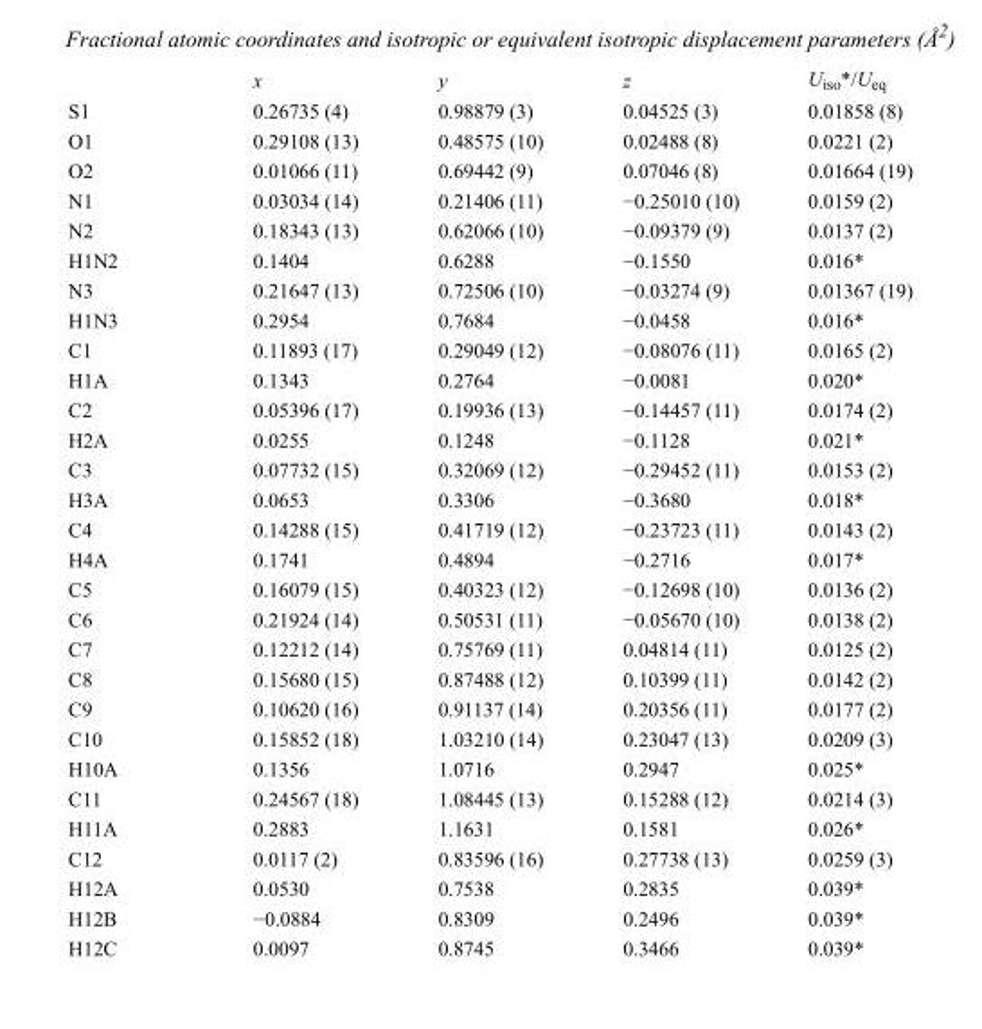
<table><thead><tr><td></td><td>x</td><td>y</td><td>z</td><td>U<sub>iso</sub>*/U<sub>eq</sub></td></tr></thead><tbody><tr><td>S1</td><td>0.26735 (4)</td><td>0.98879 (3)</td><td>0.04525 (3)</td><td>0.01858 (8)</td></tr><tr><td>O1</td><td>0.29108 (13)</td><td>0.48575 (10)</td><td>0.02488 (8)</td><td>0.0221 (2)</td></tr><tr><td>O2</td><td>0.01066 (11)</td><td>0.69442 (9)</td><td>0.07046 (8)</td><td>0.01664 (19)</td></tr><tr><td>N1</td><td>0.03034 (14)</td><td>0.21406 (11)</td><td>−0.25010 (10)</td><td>0.0159 (2)</td></tr><tr><td>N2</td><td>0.18343 (13)</td><td>0.62066 (10)</td><td>−0.09379 (9)</td><td>0.0137 (2)</td></tr><tr><td>H1N2</td><td>0.1404</td><td>0.6288</td><td>−0.1550</td><td>0.016*</td></tr><tr><td>N3</td><td>0.21647 (13)</td><td>0.72506 (10)</td><td>−0.03274 (9)</td><td>0.01367 (19)</td></tr><tr><td>H1N3</td><td>0.2954</td><td>0.7684</td><td>−0.0458</td><td>0.016*</td></tr><tr><td>C1</td><td>0.11893 (17)</td><td>0.29049 (12)</td><td>−0.08076 (11)</td><td>0.0165 (2)</td></tr><tr><td>H1A</td><td>0.1343</td><td>0.2764</td><td>−0.0081</td><td>0.020*</td></tr><tr><td>C2</td><td>0.05396 (17)</td><td>0.19936 (13)</td><td>−0.14457 (11)</td><td>0.0174 (2)</td></tr><tr><td>H2A</td><td>0.0255</td><td>0.1248</td><td>−0.1128</td><td>0.021*</td></tr><tr><td>C3</td><td>0.07732 (15)</td><td>0.32069 (12)</td><td>−0.29452 (11)</td><td>0.0153 (2)</td></tr><tr><td>H3A</td><td>0.0653</td><td>0.3306</td><td>−0.3680</td><td>0.018*</td></tr><tr><td>C4</td><td>0.14288 (15)</td><td>0.41719 (12)</td><td>−0.23723 (11)</td><td>0.0143 (2)</td></tr><tr><td>H4A</td><td>0.1741</td><td>0.4894</td><td>−0.2716</td><td>0.017*</td></tr><tr><td>C5</td><td>0.16079 (15)</td><td>0.40323 (12)</td><td>−0.12698 (10)</td><td>0.0136 (2)</td></tr><tr><td>C6</td><td>0.21924 (14)</td><td>0.50531 (11)</td><td>−0.05670 (10)</td><td>0.0138 (2)</td></tr><tr><td>C7</td><td>0.12212 (14)</td><td>0.75769 (11)</td><td>0.04814 (11)</td><td>0.0125 (2)</td></tr><tr><td>C8</td><td>0.15680 (15)</td><td>0.87488 (12)</td><td>0.10399 (11)</td><td>0.0142 (2)</td></tr><tr><td>C9</td><td>0.10620 (16)</td><td>0.91137 (14)</td><td>0.20356 (11)</td><td>0.0177 (2)</td></tr><tr><td>C10</td><td>0.15852 (18)</td><td>1.03210 (14)</td><td>0.23047 (13)</td><td>0.0209 (3)</td></tr><tr><td>H10A</td><td>0.1356</td><td>1.0716</td><td>0.2947</td><td>0.025*</td></tr><tr><td>C11</td><td>0.24567 (18)</td><td>1.08445 (13)</td><td>0.15288 (12)</td><td>0.0214 (3)</td></tr><tr><td>H11A</td><td>0.2883</td><td>1.1631</td><td>0.1581</td><td>0.026*</td></tr><tr><td>C12</td><td>0.0117 (2)</td><td>0.83596 (16)</td><td>0.27738 (13)</td><td>0.0259 (3)</td></tr><tr><td>H12A</td><td>0.0530</td><td>0.7538</td><td>0.2835</td><td>0.039*</td></tr><tr><td>H12B</td><td>−0.0884</td><td>0.8309</td><td>0.2496</td><td>0.039*</td></tr><tr><td>H12C</td><td>0.0097</td><td>0.8745</td><td>0.3466</td><td>0.039*</td></tr></tbody></table>